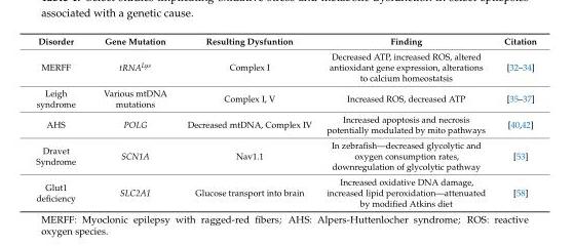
<table><thead><tr><td>Disorder</td><td>Gene Mutation</td><td>Resulting Dysfuntion</td><td>Finding</td><td>Citation</td></tr></thead><tbody><tr><td>MERFF</td><td>tRNA<sup>Lys</sup></td><td>Complex I</td><td>Decreased ATP, increased ROS, altered antioxidant gene expression, alterations to calcium homeostatsis</td><td>[32–34]</td></tr><tr><td>Leigh syndrome</td><td>Various mtDNA mutations</td><td>Complex I, V</td><td>Increased ROS, decreased ATP</td><td>[35–37]</td></tr><tr><td>AHS</td><td>POLG</td><td>Decreased mtDNA, Complex IV</td><td>Increased apoptosis and necrosis potentially modulated by mito pathways</td><td>[40,42]</td></tr><tr><td>Dravet Syndrome</td><td>SCN1A</td><td>Nav1.1</td><td>In zebrafish—decreased glycolytic and oxygen consumption rates, downregulation of glycolytic pathway</td><td>[53]</td></tr><tr><td>Glut1 deficiency</td><td>SLC2A1</td><td>Glucose transport into brain</td><td>Increased oxidative DNA damage, increased lipid peroxidation—attenuated by modified Atkins diet</td><td>[58]</td></tr></tbody></table>